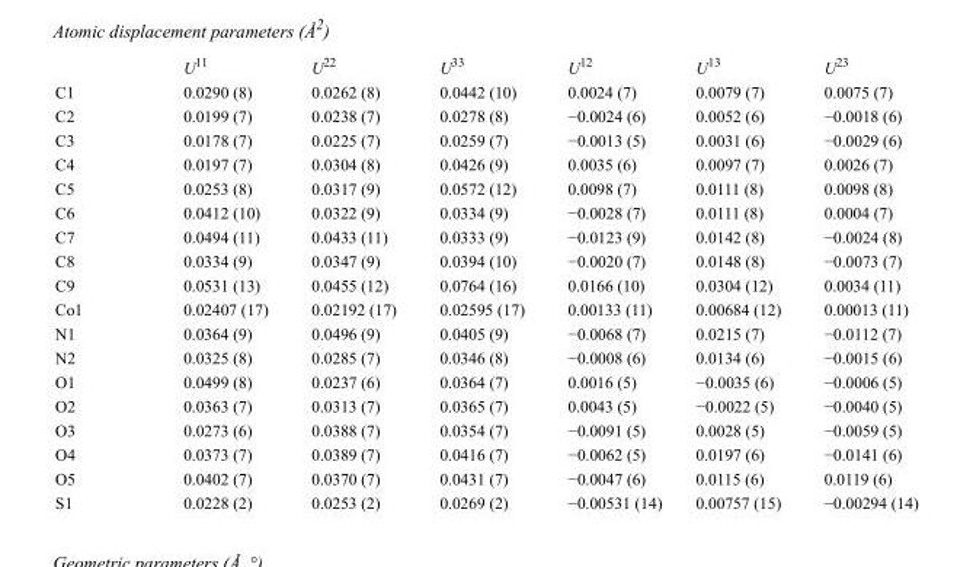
<table><thead><tr><td></td><td>U<sup>11</sup></td><td>U<sup>22</sup></td><td>U<sup>33</sup></td><td>U<sup>12</sup></td><td>U<sup>13</sup></td><td>U<sup>23</sup></td></tr></thead><tbody><tr><td>C1</td><td>0.0290 (8)</td><td>0.0262 (8)</td><td>0.0442 (10)</td><td>0.0024 (7)</td><td>0.0079 (7)</td><td>0.0075 (7)</td></tr><tr><td>C2</td><td>0.0199 (7)</td><td>0.0238 (7)</td><td>0.0278 (8)</td><td>−0.0024 (6)</td><td>0.0052 (6)</td><td>−0.0018 (6)</td></tr><tr><td>C3</td><td>0.0178 (7)</td><td>0.0225 (7)</td><td>0.0259 (7)</td><td>−0.0013 (5)</td><td>0.0031 (6)</td><td>−0.0029 (6)</td></tr><tr><td>C4</td><td>0.0197 (7)</td><td>0.0304 (8)</td><td>0.0426 (9)</td><td>0.0035 (6)</td><td>0.0097 (7)</td><td>0.0026 (7)</td></tr><tr><td>C5</td><td>0.0253 (8)</td><td>0.0317 (9)</td><td>0.0572 (12)</td><td>0.0098 (7)</td><td>0.0111 (8)</td><td>0.0098 (8)</td></tr><tr><td>C6</td><td>0.0412 (10)</td><td>0.0322 (9)</td><td>0.0334 (9)</td><td>−0.0028 (7)</td><td>0.0111 (8)</td><td>0.0004 (7)</td></tr><tr><td>C7</td><td>0.0494 (11)</td><td>0.0433 (11)</td><td>0.0333 (9)</td><td>−0.0123 (9)</td><td>0.0142 (8)</td><td>−0.0024 (8)</td></tr><tr><td>C8</td><td>0.0334 (9)</td><td>0.0347 (9)</td><td>0.0394 (10)</td><td>−0.0020 (7)</td><td>0.0148 (8)</td><td>−0.0073 (7)</td></tr><tr><td>C9</td><td>0.0531 (13)</td><td>0.0455 (12)</td><td>0.0764 (16)</td><td>0.0166 (10)</td><td>0.0304 (12)</td><td>0.0034 (11)</td></tr><tr><td>Co1</td><td>0.02407 (17)</td><td>0.02192 (17)</td><td>0.02595 (17)</td><td>0.00133 (11)</td><td>0.00684 (12)</td><td>0.00013 (11)</td></tr><tr><td>N1</td><td>0.0364 (9)</td><td>0.0496 (9)</td><td>0.0405 (9)</td><td>−0.0068 (7)</td><td>0.0215 (7)</td><td>−0.0112 (7)</td></tr><tr><td>N2</td><td>0.0325 (8)</td><td>0.0285 (7)</td><td>0.0346 (8)</td><td>−0.0008 (6)</td><td>0.0134 (6)</td><td>−0.0015 (6)</td></tr><tr><td>O1</td><td>0.0499 (8)</td><td>0.0237 (6)</td><td>0.0364 (7)</td><td>0.0016 (5)</td><td>−0.0035 (6)</td><td>−0.0006 (5)</td></tr><tr><td>O2</td><td>0.0363 (7)</td><td>0.0313 (7)</td><td>0.0365 (7)</td><td>0.0043 (5)</td><td>−0.0022 (5)</td><td>−0.0040 (5)</td></tr><tr><td>O3</td><td>0.0273 (6)</td><td>0.0388 (7)</td><td>0.0354 (7)</td><td>−0.0091 (5)</td><td>0.0028 (5)</td><td>−0.0059 (5)</td></tr><tr><td>O4</td><td>0.0373 (7)</td><td>0.0389 (7)</td><td>0.0416 (7)</td><td>−0.0062 (5)</td><td>0.0197 (6)</td><td>−0.0141 (6)</td></tr><tr><td>O5</td><td>0.0402 (7)</td><td>0.0370 (7)</td><td>0.0431 (7)</td><td>−0.0047 (6)</td><td>0.0115 (6)</td><td>0.0119 (6)</td></tr><tr><td>S1</td><td>0.0228 (2)</td><td>0.0253 (2)</td><td>0.0269 (2)</td><td>−0.00531 (14)</td><td>0.00757 (15)</td><td>−0.00294 (14)</td></tr></tbody></table>